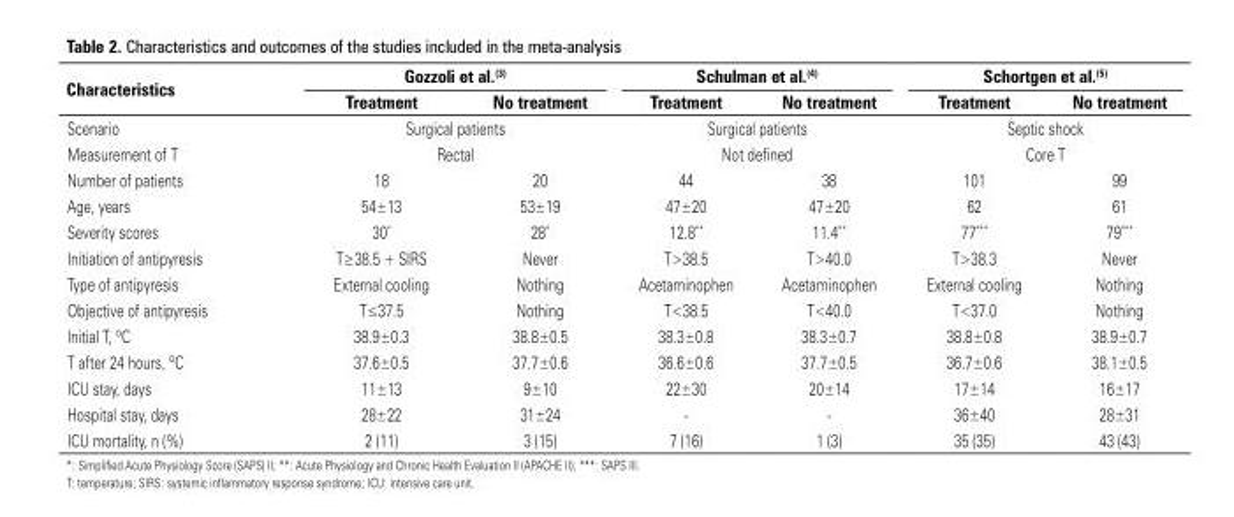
<table><thead><tr><td rowspan="2">Characteristics</td><td colspan="2">Gozzoli et al.<sup>(3)</sup></td><td colspan="2">Schulman et al.<sup>(4)</sup></td><td colspan="2">Schortgen et al.<sup>(5)</sup></td></tr><tr><td>Treatment</td><td>No treatment</td><td>Treatment</td><td>No treatment</td><td>Treatment</td><td>No treatment</td></tr></thead><tbody><tr><td>Scenario</td><td colspan="2">Surgical patients</td><td colspan="2">Surgical patients</td><td colspan="2">Septic shock</td></tr><tr><td>Measurement of T</td><td colspan="2">Rectal</td><td colspan="2">Not defined</td><td colspan="2">Core T</td></tr><tr><td>Number of patients</td><td>18</td><td>20</td><td>44</td><td>38</td><td>101</td><td>99</td></tr><tr><td>Age, years</td><td>54±13</td><td>53±19</td><td>47±20</td><td>47±20</td><td>62</td><td>61</td></tr><tr><td>Severity scores</td><td>30*</td><td>28*</td><td>12.8**</td><td>11.4**</td><td>77***</td><td>79***</td></tr><tr><td>Initiation of antipyresis</td><td>T≥38.5 + SIRS</td><td>Never</td><td>T&gt;38.5</td><td>T&gt;40.0</td><td>T&gt;38.3</td><td>Never</td></tr><tr><td>Type of antipyresis</td><td>External cooling</td><td>Nothing</td><td>Acetaminophen</td><td>Acetaminophen</td><td>External cooling</td><td>Nothing</td></tr><tr><td>Objective of antipyresis</td><td>T≤37.5</td><td>Nothing</td><td>T&lt;38.5</td><td>T&lt;40.0</td><td>T&lt;37.0</td><td>Nothing</td></tr><tr><td>Initial T, ºC</td><td>38.9±0.3</td><td>38.8±0.5</td><td>38.3±0.8</td><td>38.3±0.7</td><td>38.8±0.8</td><td>38.9±0.7</td></tr><tr><td>T after 24 hours, ºC</td><td>37.6±0.5</td><td>37.7±0.6</td><td>36.6±0.6</td><td>37.7±0.5</td><td>36.7±0.6</td><td>38.1±0.5</td></tr><tr><td>ICU stay, days</td><td>11±13</td><td>9±10</td><td>22±30</td><td>20±14</td><td>17±14</td><td>16±17</td></tr><tr><td>Hospital stay, days</td><td>28±22</td><td>31±24</td><td>-</td><td>-</td><td>36±40</td><td>28±31</td></tr><tr><td>ICU mortality, n (%)</td><td>2 (11)</td><td>3 (15)</td><td>7 (16)</td><td>1 (3)</td><td>35 (35)</td><td>43 (43)</td></tr></tbody></table>